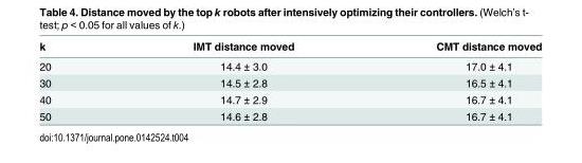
<table><thead><tr><td>k</td><td>IMT distance moved</td><td>CMT distance moved</td></tr></thead><tbody><tr><td>20</td><td>14.4 ± 3.0</td><td>17.0 ± 4.1</td></tr><tr><td>30</td><td>14.5 ± 2.8</td><td>16.5 ± 4.1</td></tr><tr><td>40</td><td>14.7 ± 2.9</td><td>16.7 ± 4.1</td></tr><tr><td>50</td><td>14.6 ± 2.8</td><td>16.7 ± 4.1</td></tr></tbody></table>